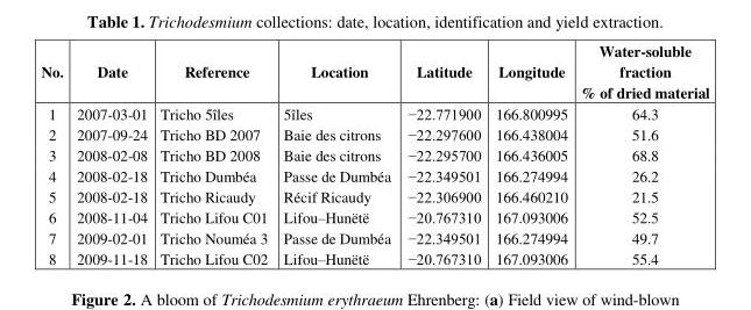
<table><thead><tr><td>No.</td><td>Date</td><td>Reference</td><td>Location</td><td>Latitude</td><td>Longitude</td><td>Water-soluble fraction % of dried material</td></tr></thead><tbody><tr><td>1</td><td>2007-03-01</td><td>Tricho 5îles</td><td>5îles</td><td>−22.771900</td><td>166.800995</td><td>64.3</td></tr><tr><td>2</td><td>2007-09-24</td><td>Tricho BD 2007</td><td>Baie des citrons</td><td>−22.297600</td><td>166.438004</td><td>51.6</td></tr><tr><td>3</td><td>2008-02-08</td><td>Tricho BD 2008</td><td>Baie des citrons</td><td>−22.295700</td><td>166.436005</td><td>68.8</td></tr><tr><td>4</td><td>2008-02-18</td><td>Tricho Dumbéa</td><td>Passe de Dumbéa</td><td>−22.349501</td><td>166.274994</td><td>26.2</td></tr><tr><td>5</td><td>2008-02-18</td><td>Tricho Ricaudy</td><td>Récif Ricaudy</td><td>−22.306900</td><td>166.460210</td><td>21.5</td></tr><tr><td>6</td><td>2008-11-04</td><td>Tricho Lifou C01</td><td>Lifou–Hunëtë</td><td>−20.767310</td><td>167.093006</td><td>52.5</td></tr><tr><td>7</td><td>2009-02-01</td><td>Tricho Nouméa 3</td><td>Passe de Dumbéa</td><td>−22.349501</td><td>166.274994</td><td>49.7</td></tr><tr><td>8</td><td>2009-11-18</td><td>Tricho Lifou C02</td><td>Lifou–Hunëtë</td><td>−20.767310</td><td>167.093006</td><td>55.4</td></tr></tbody></table>